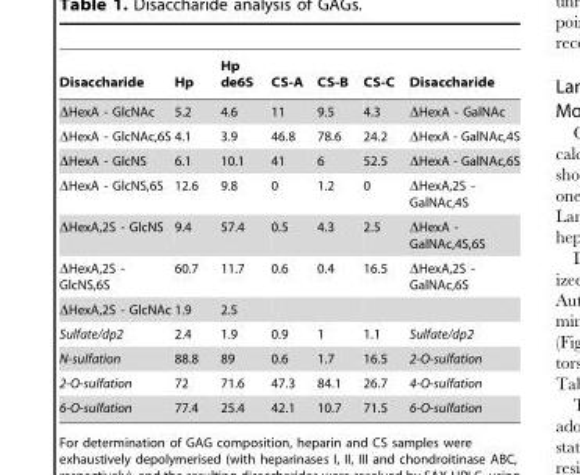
<table><thead><tr><td>Disaccharide</td><td>Hp</td><td>Hp de6S</td><td>CS-A</td><td>CS-B</td><td>CS-C</td><td>Disaccharide</td></tr></thead><tbody><tr><td>ΔHexA - GlcNAc</td><td>5.2</td><td>4.6</td><td>11</td><td>9.5</td><td>4.3</td><td>ΔHexA - GalNAc</td></tr><tr><td>ΔHexA - GlcNAc,6S</td><td>4.1</td><td>3.9</td><td>46.8</td><td>78.6</td><td>24.2</td><td>ΔHexA - GalNAc,4S</td></tr><tr><td>ΔHexA - GlcNS</td><td>6.1</td><td>10.1</td><td>41</td><td>6</td><td>52.5</td><td>ΔHexA - GalNAc,6S</td></tr><tr><td>ΔHexA - GlcNS,6S</td><td>12.6</td><td>9.8</td><td>0</td><td>1.2</td><td>0</td><td>ΔHexA,2S - GalNAc,4S</td></tr><tr><td>ΔHexA,2S - GlcNS</td><td>9.4</td><td>57.4</td><td>0.5</td><td>4.3</td><td>2.5</td><td>ΔHexA - GalNAc,4S,6S</td></tr><tr><td>ΔHexA,2S - GlcNS,6S</td><td>60.7</td><td>11.7</td><td>0.6</td><td>0.4</td><td>16.5</td><td>ΔHexA,2S - GalNAc,6S</td></tr><tr><td>ΔHexA,2S - GlcNAc</td><td>1.9</td><td>2.5</td><td></td><td></td><td></td><td></td></tr><tr><td>Sulfate/dp2</td><td>2.4</td><td>1.9</td><td>0.9</td><td>1</td><td>1.1</td><td>Sulfate/dp2</td></tr><tr><td>N-sulfation</td><td>88.8</td><td>89</td><td>0.6</td><td>1.7</td><td>16.5</td><td>2-O-sulfation</td></tr><tr><td>2-O-sulfation</td><td>72</td><td>71.6</td><td>47.3</td><td>84.1</td><td>26.7</td><td>4-O-sulfation</td></tr><tr><td>6-O-sulfation</td><td>77.4</td><td>25.4</td><td>42.1</td><td>10.7</td><td>71.5</td><td>6-O-sulfation</td></tr></tbody></table>